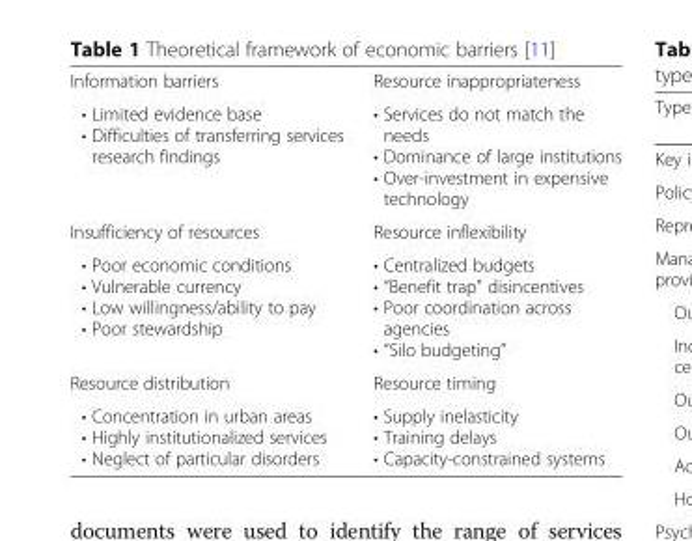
<table><tbody><tr><td>Information barriers</td><td>Resource inappropriateness</td></tr><tr><td>• Limited evidence base • Difficulties of transferring services research findings</td><td>• Services do not match the needs • Dominance of large institutions • Over-investment in expensive technology</td></tr><tr><td>Insufficiency of resources</td><td>Resource inflexibility</td></tr><tr><td>• Poor economic conditions • Vulnerable currency • Low willingness/ability to pay • Poor stewardship</td><td>• Centralized budgets • “Benefit trap” disincentives • Poor coordination across agencies • “Silo budgeting”</td></tr><tr><td>Resource distribution</td><td>Resource timing</td></tr><tr><td>• Concentration in urban areas • Highly institutionalized services • Neglect of particular disorders</td><td>• Supply inelasticity • Training delays • Capacity-constrained systems</td></tr></tbody></table>